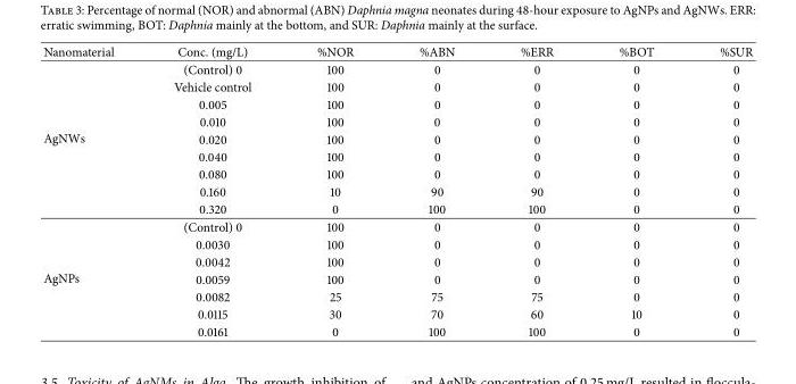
<table><tbody><tr><td>Nanomaterial</td><td>Conc. (mg/L)</td><td>%NOR</td><td>%ABN</td><td>%ERR</td><td>%BOT</td><td>%SUR</td></tr><tr><td rowspan="9">AgNWs</td><td>(Control) 0</td><td>100</td><td>0</td><td>0</td><td>0</td><td>0</td></tr><tr><td>Vehicle control</td><td>100</td><td>0</td><td>0</td><td>0</td><td>0</td></tr><tr><td>0.005</td><td>100</td><td>0</td><td>0</td><td>0</td><td>0</td></tr><tr><td>0.010</td><td>100</td><td>0</td><td>0</td><td>0</td><td>0</td></tr><tr><td>0.020</td><td>100</td><td>0</td><td>0</td><td>0</td><td>0</td></tr><tr><td>0.040</td><td>100</td><td>0</td><td>0</td><td>0</td><td>0</td></tr><tr><td>0.080</td><td>100</td><td>0</td><td>0</td><td>0</td><td>0</td></tr><tr><td>0.160</td><td>10</td><td>90</td><td>90</td><td>0</td><td>0</td></tr><tr><td>0.320</td><td>0</td><td>100</td><td>100</td><td>0</td><td>0</td></tr><tr><td rowspan="7">AgNPs</td><td>(Control) 0</td><td>100</td><td>0</td><td>0</td><td>0</td><td>0</td></tr><tr><td>0.0030</td><td>100</td><td>0</td><td>0</td><td>0</td><td>0</td></tr><tr><td>0.0042</td><td>100</td><td>0</td><td>0</td><td>0</td><td>0</td></tr><tr><td>0.0059</td><td>100</td><td>0</td><td>0</td><td>0</td><td>0</td></tr><tr><td>0.0082</td><td>25</td><td>75</td><td>75</td><td>0</td><td>0</td></tr><tr><td>0.0115</td><td>30</td><td>70</td><td>60</td><td>10</td><td>0</td></tr><tr><td>0.0161</td><td>0</td><td>100</td><td>100</td><td>0</td><td>0</td></tr></tbody></table>